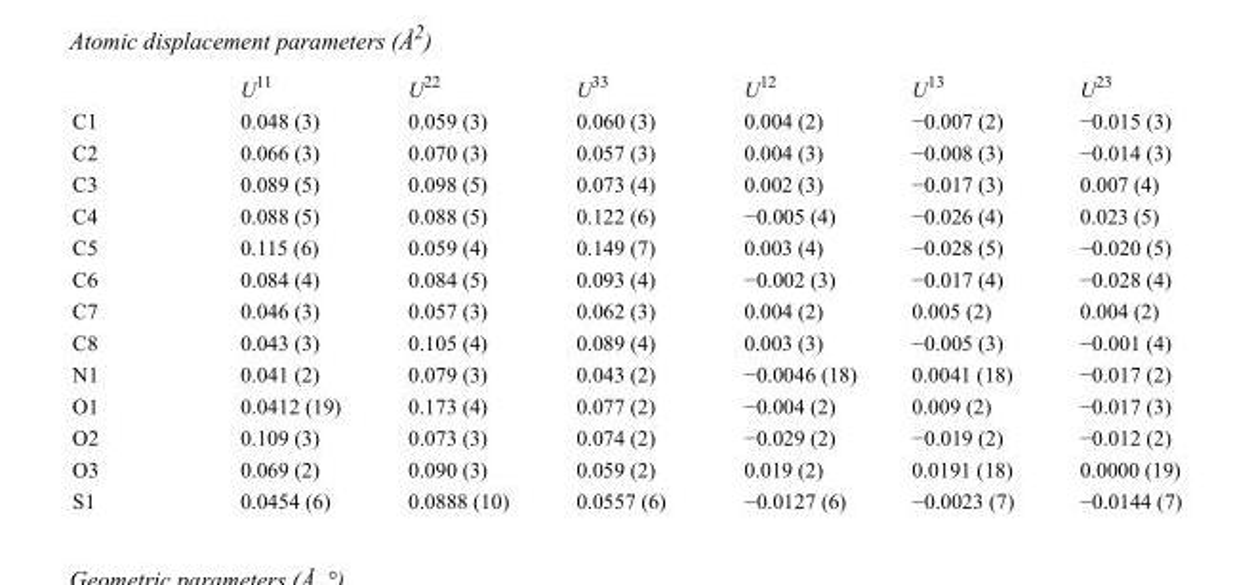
<table><thead><tr><td></td><td>U<sup>11</sup></td><td>U<sup>22</sup></td><td>U<sup>33</sup></td><td>U<sup>12</sup></td><td>U<sup>13</sup></td><td>U<sup>23</sup></td></tr></thead><tbody><tr><td>C1</td><td>0.048 (3)</td><td>0.059 (3)</td><td>0.060 (3)</td><td>0.004 (2)</td><td>−0.007 (2)</td><td>−0.015 (3)</td></tr><tr><td>C2</td><td>0.066 (3)</td><td>0.070 (3)</td><td>0.057 (3)</td><td>0.004 (3)</td><td>−0.008 (3)</td><td>−0.014 (3)</td></tr><tr><td>C3</td><td>0.089 (5)</td><td>0.098 (5)</td><td>0.073 (4)</td><td>0.002 (3)</td><td>−0.017 (3)</td><td>0.007 (4)</td></tr><tr><td>C4</td><td>0.088 (5)</td><td>0.088 (5)</td><td>0.122 (6)</td><td>−0.005 (4)</td><td>−0.026 (4)</td><td>0.023 (5)</td></tr><tr><td>C5</td><td>0.115 (6)</td><td>0.059 (4)</td><td>0.149 (7)</td><td>0.003 (4)</td><td>−0.028 (5)</td><td>−0.020 (5)</td></tr><tr><td>C6</td><td>0.084 (4)</td><td>0.084 (5)</td><td>0.093 (4)</td><td>−0.002 (3)</td><td>−0.017 (4)</td><td>−0.028 (4)</td></tr><tr><td>C7</td><td>0.046 (3)</td><td>0.057 (3)</td><td>0.062 (3)</td><td>0.004 (2)</td><td>0.005 (2)</td><td>0.004 (2)</td></tr><tr><td>C8</td><td>0.043 (3)</td><td>0.105 (4)</td><td>0.089 (4)</td><td>0.003 (3)</td><td>−0.005 (3)</td><td>−0.001 (4)</td></tr><tr><td>N1</td><td>0.041 (2)</td><td>0.079 (3)</td><td>0.043 (2)</td><td>−0.0046 (18)</td><td>0.0041 (18)</td><td>−0.017 (2)</td></tr><tr><td>O1</td><td>0.0412 (19)</td><td>0.173 (4)</td><td>0.077 (2)</td><td>−0.004 (2)</td><td>0.009 (2)</td><td>−0.017 (3)</td></tr><tr><td>O2</td><td>0.109 (3)</td><td>0.073 (3)</td><td>0.074 (2)</td><td>−0.029 (2)</td><td>−0.019 (2)</td><td>−0.012 (2)</td></tr><tr><td>O3</td><td>0.069 (2)</td><td>0.090 (3)</td><td>0.059 (2)</td><td>0.019 (2)</td><td>0.0191 (18)</td><td>0.0000 (19)</td></tr><tr><td>S1</td><td>0.0454 (6)</td><td>0.0888 (10)</td><td>0.0557 (6)</td><td>−0.0127 (6)</td><td>−0.0023 (7)</td><td>−0.0144 (7)</td></tr></tbody></table>